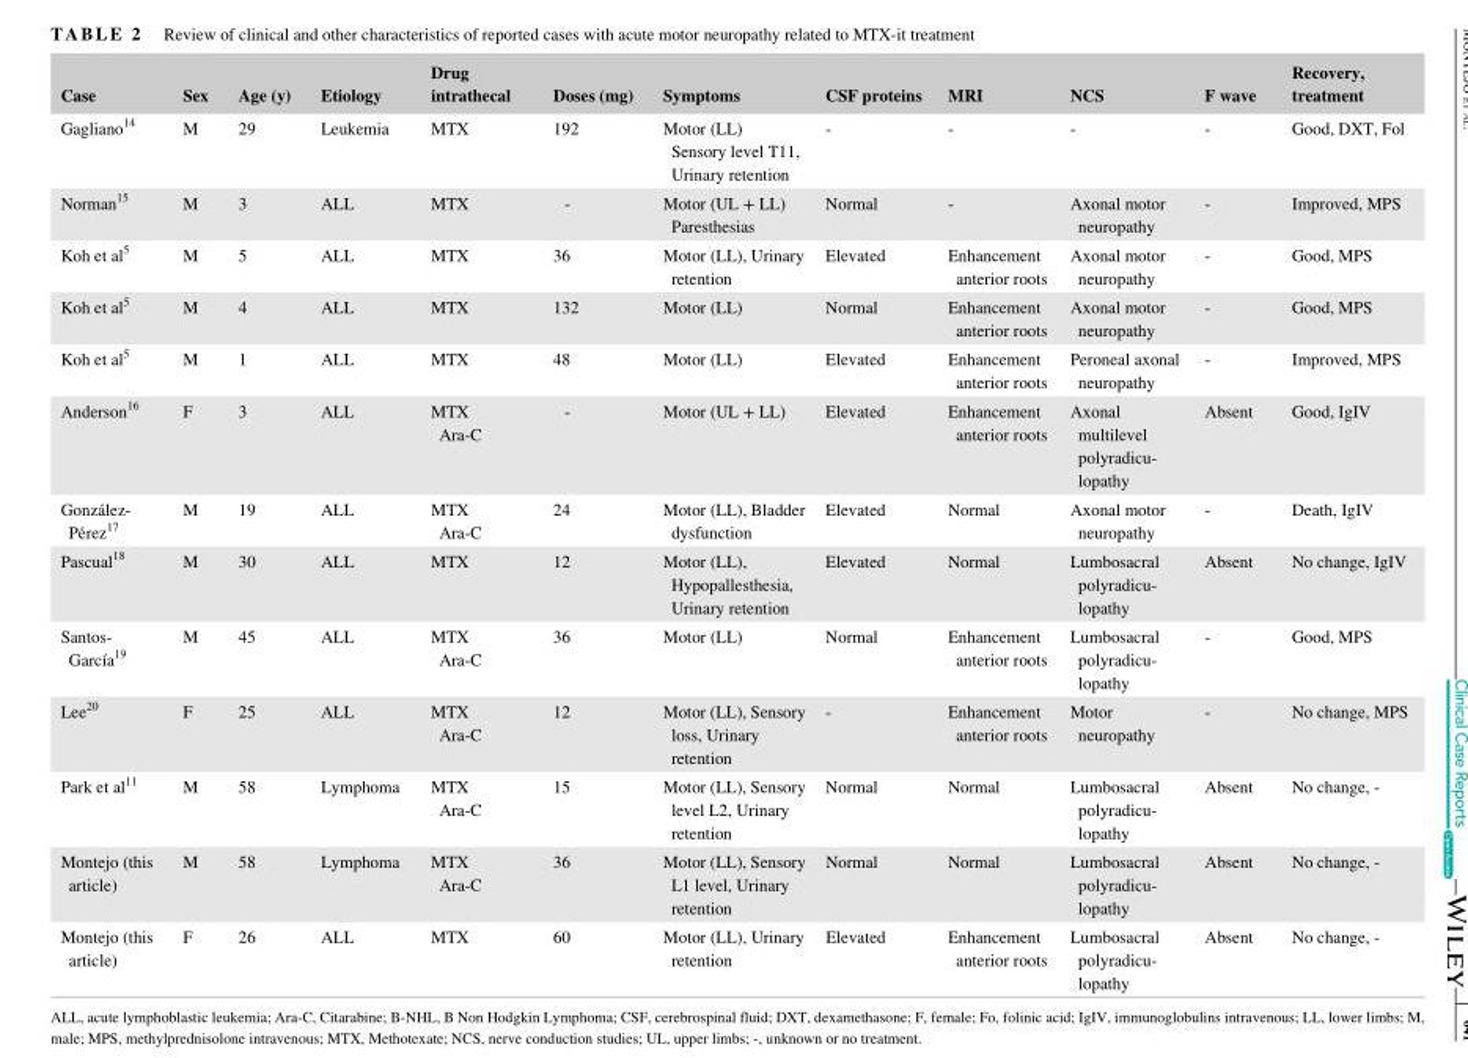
<table><thead><tr><td>Case</td><td>Sex</td><td>Age (y)</td><td>Etiology</td><td>Drug intrathecal</td><td>Doses (mg)</td><td>Symptoms</td><td>CSF proteins</td><td>MRI</td><td>NCS</td><td>F wave</td><td>Recovery, treatment</td></tr></thead><tbody><tr><td>Gagliano<sup>14</sup></td><td>M</td><td>29</td><td>Leukemia</td><td>MTX</td><td>192</td><td>Motor (LL) Sensory level T11, Urinary retention</td><td>‐</td><td>‐</td><td>‐</td><td>‐</td><td>Good, DXT, Fol</td></tr><tr><td>Norman<sup>15</sup></td><td>M</td><td>3</td><td>ALL</td><td>MTX</td><td>‐</td><td>Motor (UL + LL) Paresthesias</td><td>Normal</td><td>‐</td><td>Axonal motor neuropathy</td><td>‐</td><td>Improved, MPS</td></tr><tr><td>Koh et al<sup>5</sup></td><td>M</td><td>5</td><td>ALL</td><td>MTX</td><td>36</td><td>Motor (LL), Urinary retention</td><td>Elevated</td><td>Enhancement anterior roots</td><td>Axonal motor neuropathy</td><td>‐</td><td>Good, MPS</td></tr><tr><td>Koh et al<sup>5</sup></td><td>M</td><td>4</td><td>ALL</td><td>MTX</td><td>132</td><td>Motor (LL)</td><td>Normal</td><td>Enhancement anterior roots</td><td>Axonal motor neuropathy</td><td>‐</td><td>Good, MPS</td></tr><tr><td>Koh et al<sup>5</sup></td><td>M</td><td>1</td><td>ALL</td><td>MTX</td><td>48</td><td>Motor (LL)</td><td>Elevated</td><td>Enhancement anterior roots</td><td>Peroneal axonal neuropathy</td><td>‐</td><td>Improved, MPS</td></tr><tr><td>Anderson<sup>16</sup></td><td>F</td><td>3</td><td>ALL</td><td>MTX Ara‐C</td><td>‐</td><td>Motor (UL + LL)</td><td>Elevated</td><td>Enhancement anterior roots</td><td>Axonal multilevel polyradicu- lopathy</td><td>Absent</td><td>Good, IgIV</td></tr><tr><td>González‐ Pérez<sup>17</sup></td><td>M</td><td>19</td><td>ALL</td><td>MTX Ara‐C</td><td>24</td><td>Motor (LL), Bladder dysfunction</td><td>Elevated</td><td>Normal</td><td>Axonal motor neuropathy</td><td>‐</td><td>Death, IgIV</td></tr><tr><td>Pascual<sup>18</sup></td><td>M</td><td>30</td><td>ALL</td><td>MTX</td><td>12</td><td>Motor (LL), Hypopallesthesia, Urinary retention</td><td>Elevated</td><td>Normal</td><td>Lumbosacral polyradicu- lopathy</td><td>Absent</td><td>No change, IgIV</td></tr><tr><td>Santos‐ García<sup>19</sup></td><td>M</td><td>45</td><td>ALL</td><td>MTX Ara‐C</td><td>36</td><td>Motor (LL)</td><td>Normal</td><td>Enhancement anterior roots</td><td>Lumbosacral polyradicu- lopathy</td><td>‐</td><td>Good, MPS</td></tr><tr><td>Lee<sup>20</sup></td><td>F</td><td>25</td><td>ALL</td><td>MTX Ara‐C</td><td>12</td><td>Motor (LL), Sensory loss, Urinary retention</td><td>‐</td><td>Enhancement anterior roots</td><td>Motor neuropathy</td><td>‐</td><td>No change, MPS</td></tr><tr><td>Park et al<sup>11</sup></td><td>M</td><td>58</td><td>Lymphoma</td><td>MTX Ara‐C</td><td>15</td><td>Motor (LL), Sensory level L2, Urinary retention</td><td>Normal</td><td>Normal</td><td>Lumbosacral polyradicu- lopathy</td><td>Absent</td><td>No change, ‐</td></tr><tr><td>Montejo (this article)</td><td>M</td><td>58</td><td>Lymphoma</td><td>MTX Ara‐C</td><td>36</td><td>Motor (LL), Sensory L1 level, Urinary retention</td><td>Normal</td><td>Normal</td><td>Lumbosacral polyradicu- lopathy</td><td>Absent</td><td>No change, ‐</td></tr><tr><td>Montejo (this article)</td><td>F</td><td>26</td><td>ALL</td><td>MTX</td><td>60</td><td>Motor (LL), Urinary retention</td><td>Elevated</td><td>Enhancement anterior roots</td><td>Lumbosacral polyradicu- lopathy</td><td>Absent</td><td>No change, ‐</td></tr></tbody></table>